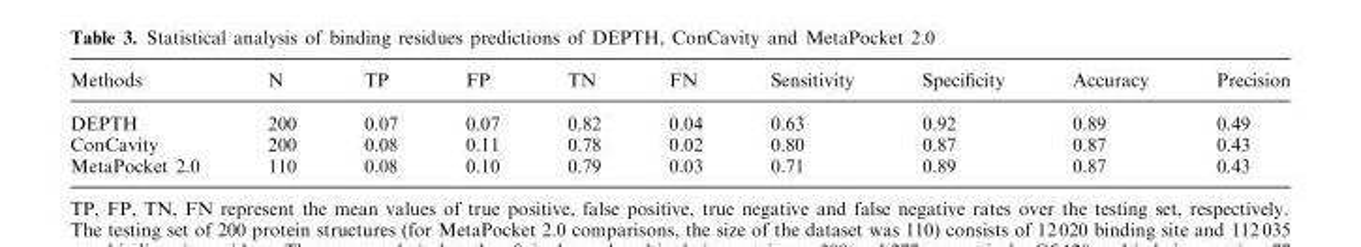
<table><thead><tr><td>Methods</td><td>N</td><td>TP</td><td>FP</td><td>TN</td><td>FN</td><td>Sensitivity</td><td>Specificity</td><td>Accuracy</td><td>Precision</td></tr></thead><tbody><tr><td>DEPTH</td><td>200</td><td>0.07</td><td>0.07</td><td>0.82</td><td>0.04</td><td>0.63</td><td>0.92</td><td>0.89</td><td>0.49</td></tr><tr><td>ConCavity</td><td>200</td><td>0.08</td><td>0.11</td><td>0.78</td><td>0.02</td><td>0.80</td><td>0.87</td><td>0.87</td><td>0.43</td></tr><tr><td>MetaPocket 2.0</td><td>110</td><td>0.08</td><td>0.10</td><td>0.79</td><td>0.03</td><td>0.71</td><td>0.89</td><td>0.87</td><td>0.43</td></tr></tbody></table>